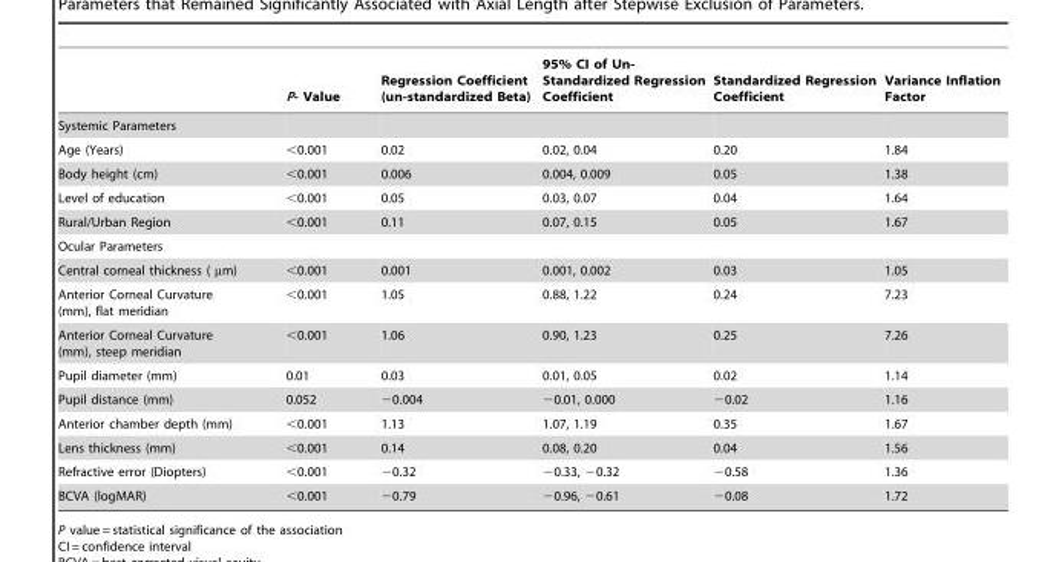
<table><thead><tr><td></td><td>P- Value</td><td>Regression Coefficient (un-standardized Beta)</td><td>95% CI of Un- Standardized Regression Coefficient</td><td>Standardized Regression Coefficient</td><td>Variance Inflation Factor</td></tr></thead><tbody><tr><td colspan="6">Systemic Parameters</td></tr><tr><td>Age (Years)</td><td>&lt;0.001</td><td>0.02</td><td>0.02, 0.04</td><td>0.20</td><td>1.84</td></tr><tr><td>Body height (cm)</td><td>&lt;0.001</td><td>0.006</td><td>0.004, 0.009</td><td>0.05</td><td>1.38</td></tr><tr><td>Level of education</td><td>&lt;0.001</td><td>0.05</td><td>0.03, 0.07</td><td>0.04</td><td>1.64</td></tr><tr><td>Rural/Urban Region</td><td>&lt;0.001</td><td>0.11</td><td>0.07, 0.15</td><td>0.05</td><td>1.67</td></tr><tr><td colspan="6">Ocular Parameters</td></tr><tr><td>Central corneal thickness ( µm)</td><td>&lt;0.001</td><td>0.001</td><td>0.001, 0.002</td><td>0.03</td><td>1.05</td></tr><tr><td>Anterior Corneal Curvature (mm), flat meridian</td><td>&lt;0.001</td><td>1.05</td><td>0.88, 1.22</td><td>0.24</td><td>7.23</td></tr><tr><td>Anterior Corneal Curvature (mm), steep meridian</td><td>&lt;0.001</td><td>1.06</td><td>0.90, 1.23</td><td>0.25</td><td>7.26</td></tr><tr><td>Pupil diameter (mm)</td><td>0.01</td><td>0.03</td><td>0.01, 0.05</td><td>0.02</td><td>1.14</td></tr><tr><td>Pupil distance (mm)</td><td>0.052</td><td>−0.004</td><td>−0.01, 0.000</td><td>−0.02</td><td>1.16</td></tr><tr><td>Anterior chamber depth (mm)</td><td>&lt;0.001</td><td>1.13</td><td>1.07, 1.19</td><td>0.35</td><td>1.67</td></tr><tr><td>Lens thickness (mm)</td><td>&lt;0.001</td><td>0.14</td><td>0.08, 0.20</td><td>0.04</td><td>1.56</td></tr><tr><td>Refractive error (Diopters)</td><td>&lt;0.001</td><td>−0.32</td><td>−0.33, −0.32</td><td>−0.58</td><td>1.36</td></tr><tr><td>BCVA (logMAR)</td><td>&lt;0.001</td><td>−0.79</td><td>−0.96, −0.61</td><td>−0.08</td><td>1.72</td></tr></tbody></table>